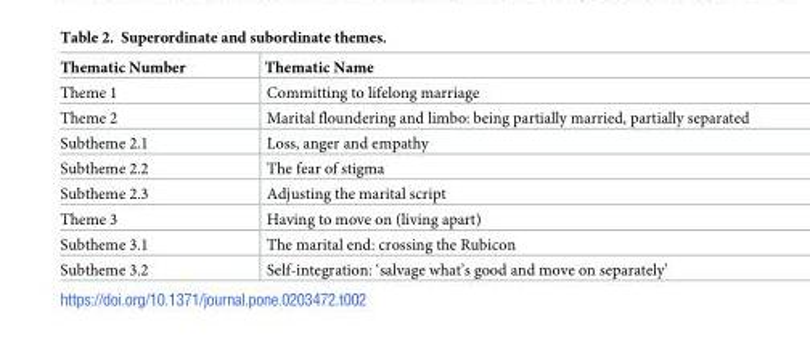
<table><thead><tr><td>Thematic Number</td><td>Thematic Name</td></tr></thead><tbody><tr><td>Theme 1</td><td>Committing to lifelong marriage</td></tr><tr><td>Theme 2</td><td>Marital floundering and limbo: being partially married, partially separated</td></tr><tr><td>Subtheme 2.1</td><td>Loss, anger and empathy</td></tr><tr><td>Subtheme 2.2</td><td>The fear of stigma</td></tr><tr><td>Subtheme 2.3</td><td>Adjusting the marital script</td></tr><tr><td>Theme 3</td><td>Having to move on (living apart)</td></tr><tr><td>Subtheme 3.1</td><td>The marital end: crossing the Rubicon</td></tr><tr><td>Subtheme 3.2</td><td>Self-integration: ‘salvage what’s good and move on separately’</td></tr></tbody></table>